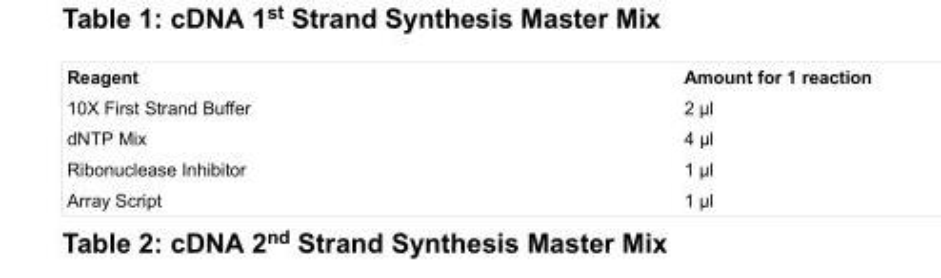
<table><tbody><tr><td>Reagent</td><td>Amount for 1 reaction</td></tr><tr><td>10X First Strand Buffer</td><td>2 µl</td></tr><tr><td>dNTP Mix</td><td>4 µl</td></tr><tr><td>Ribonuclease Inhibitor</td><td>1 µl</td></tr><tr><td>Array Script</td><td>1 µl</td></tr></tbody></table>